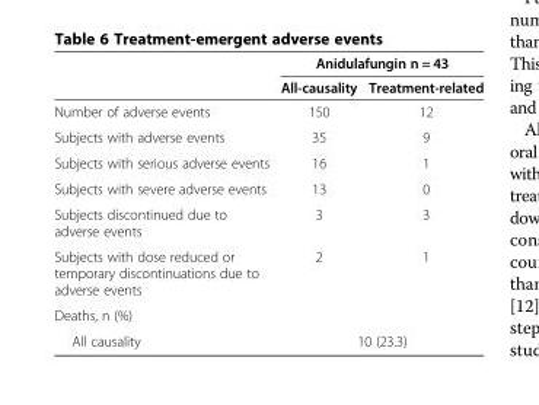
<table><thead><tr><td rowspan="2"></td><td colspan="2">Anidulafungin n = 43</td></tr><tr><td>All-causality</td><td>Treatment-related</td></tr></thead><tbody><tr><td>Number of adverse events</td><td>150</td><td>12</td></tr><tr><td>Subjects with adverse events</td><td>35</td><td>9</td></tr><tr><td>Subjects with serious adverse events</td><td>16</td><td>1</td></tr><tr><td>Subjects with severe adverse events</td><td>13</td><td>0</td></tr><tr><td>Subjects discontinued due to adverse events</td><td>3</td><td>3</td></tr><tr><td>Subjects with dose reduced or temporary discontinuations due to adverse events</td><td>2</td><td>1</td></tr><tr><td colspan="3">Deaths, n (%)</td></tr><tr><td>All causality</td><td colspan="2">10 (23.3)</td></tr></tbody></table>